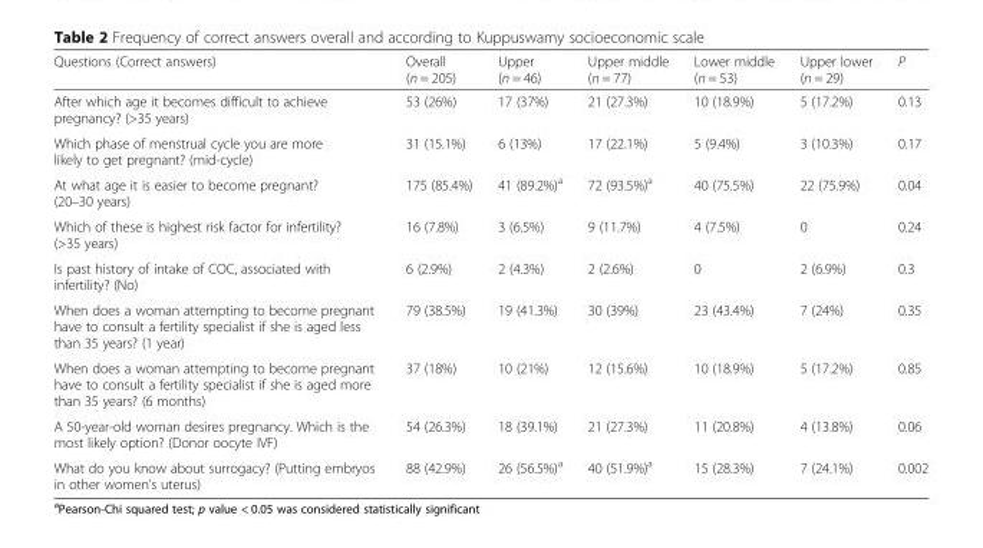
<table><thead><tr><td>Questions (Correct answers)</td><td>Overall (n = 205)</td><td>Upper (n = 46)</td><td>Upper middle (n = 77)</td><td>Lower middle (n = 53)</td><td>Upper lower (n = 29)</td><td>P</td></tr></thead><tbody><tr><td>After which age it becomes difficult to achieve pregnancy? (&gt;35 years)</td><td>53 (26%)</td><td>17 (37%)</td><td>21 (27.3%)</td><td>10 (18.9%)</td><td>5 (17.2%)</td><td>0.13</td></tr><tr><td>Which phase of menstrual cycle you are more likely to get pregnant? (mid-cycle)</td><td>31 (15.1%)</td><td>6 (13%)</td><td>17 (22.1%)</td><td>5 (9.4%)</td><td>3 (10.3%)</td><td>0.17</td></tr><tr><td>At what age it is easier to become pregnant? (20–30 years)</td><td>175 (85.4%)</td><td>41 (89.2%)<sup>a</sup></td><td>72 (93.5%)<sup>a</sup></td><td>40 (75.5%)</td><td>22 (75.9%)</td><td>0.04</td></tr><tr><td>Which of these is highest risk factor for infertility? (&gt;35 years)</td><td>16 (7.8%)</td><td>3 (6.5%)</td><td>9 (11.7%)</td><td>4 (7.5%)</td><td>0</td><td>0.24</td></tr><tr><td>Is past history of intake of COC, associated with infertility? (No)</td><td>6 (2.9%)</td><td>2 (4.3%)</td><td>2 (2.6%)</td><td>0</td><td>2 (6.9%)</td><td>0.3</td></tr><tr><td>When does a woman attempting to become pregnant have to consult a fertility specialist if she is aged less than 35 years? (1 year)</td><td>79 (38.5%)</td><td>19 (41.3%)</td><td>30 (39%)</td><td>23 (43.4%)</td><td>7 (24%)</td><td>0.35</td></tr><tr><td>When does a woman attempting to become pregnant have to consult a fertility specialist if she is aged more than 35 years? (6 months)</td><td>37 (18%)</td><td>10 (21%)</td><td>12 (15.6%)</td><td>10 (18.9%)</td><td>5 (17.2%)</td><td>0.85</td></tr><tr><td>A 50-year-old woman desires pregnancy. Which is the most likely option? (Donor oocyte IVF)</td><td>54 (26.3%)</td><td>18 (39.1%)</td><td>21 (27.3%)</td><td>11 (20.8%)</td><td>4 (13.8%)</td><td>0.06</td></tr><tr><td>What do you know about surrogacy? (Putting embryos in other women’s uterus)</td><td>88 (42.9%)</td><td>26 (56.5%)<sup>a</sup></td><td>40 (51.9%)<sup>a</sup></td><td>15 (28.3%)</td><td>7 (24.1%)</td><td>0.002</td></tr></tbody></table>